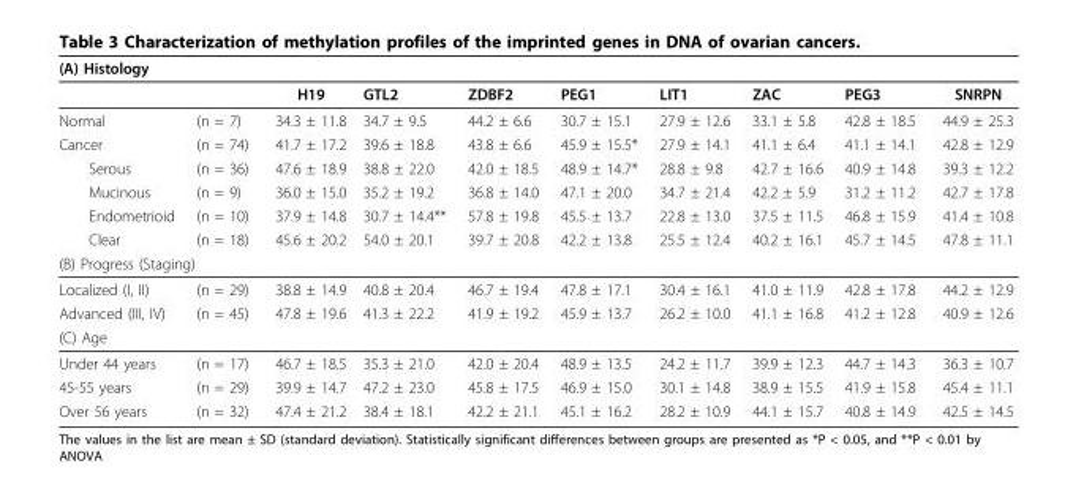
<table><thead><tr><td colspan="10">(A) Histology</td></tr><tr><td></td><td></td><td>H19</td><td>GTL2</td><td>ZDBF2</td><td>PEG1</td><td>LIT1</td><td>ZAC</td><td>PEG3</td><td>SNRPN</td></tr></thead><tbody><tr><td>Normal</td><td>(n = 7)</td><td>34.3 ± 11.8</td><td>34.7 ± 9.5</td><td>44.2 ± 6.6</td><td>30.7 ± 15.1</td><td>27.9 ± 12.6</td><td>33.1 ± 5.8</td><td>42.8 ± 18.5</td><td>44.9 ± 25.3</td></tr><tr><td>Cancer</td><td>(n = 74)</td><td>41.7 ± 17.2</td><td>39.6 ± 18.8</td><td>43.8 ± 6.6</td><td>45.9 ± 15.5*</td><td>27.9 ± 14.1</td><td>41.1 ± 6.4</td><td>41.1 ± 14.1</td><td>42.8 ± 12.9</td></tr><tr><td>Serous</td><td>(n = 36)</td><td>47.6 ± 18.9</td><td>38.8 ± 22.0</td><td>42.0 ± 18.5</td><td>48.9 ± 14.7*</td><td>28.8 ± 9.8</td><td>42.7 ± 16.6</td><td>40.9 ± 14.8</td><td>39.3 ± 12.2</td></tr><tr><td>Mucinous</td><td>(n = 9)</td><td>36.0 ± 15.0</td><td>35.2 ± 19.2</td><td>36.8 ± 14.0</td><td>47.1 ± 20.0</td><td>34.7 ± 21.4</td><td>42.2 ± 5.9</td><td>31.2 ± 11.2</td><td>42.7 ± 17.8</td></tr><tr><td>Endometrioid</td><td>(n = 10)</td><td>37.9 ± 14.8</td><td>30.7 ± 14.4**</td><td>57.8 ± 19.8</td><td>45.5 ± 13.7</td><td>22.8 ± 13.0</td><td>37.5 ± 11.5</td><td>46.8 ± 15.9</td><td>41.4 ± 10.8</td></tr><tr><td>Clear</td><td>(n = 18)</td><td>45.6 ± 20.2</td><td>54.0 ± 20.1</td><td>39.7 ± 20.8</td><td>42.2 ± 13.8</td><td>25.5 ± 12.4</td><td>40.2 ± 16.1</td><td>45.7 ± 14.5</td><td>47.8 ± 11.1</td></tr><tr><td colspan="10">(B) Progress (Staging)</td></tr><tr><td>Localized (I, II)</td><td>(n = 29)</td><td>38.8 ± 14.9</td><td>40.8 ± 20.4</td><td>46.7 ± 19.4</td><td>47.8 ± 17.1</td><td>30.4 ± 16.1</td><td>41.0 ± 11.9</td><td>42.8 ± 17.8</td><td>44.2 ± 12.9</td></tr><tr><td>Advanced (III, IV)</td><td>(n = 45)</td><td>47.8 ± 19.6</td><td>41.3 ± 22.2</td><td>41.9 ± 19.2</td><td>45.9 ± 13.7</td><td>26.2 ± 10.0</td><td>41.1 ± 16.8</td><td>41.2 ± 12.8</td><td>40.9 ± 12.6</td></tr><tr><td colspan="10">(C) Age</td></tr><tr><td>Under 44 years</td><td>(n = 17)</td><td>46.7 ± 18.5</td><td>35.3 ± 21.0</td><td>42.0 ± 20.4</td><td>48.9 ± 13.5</td><td>24.2 ± 11.7</td><td>39.9 ± 12.3</td><td>44.7 ± 14.3</td><td>36.3 ± 10.7</td></tr><tr><td>45-55 years</td><td>(n = 29)</td><td>39.9 ± 14.7</td><td>47.2 ± 23.0</td><td>45.8 ± 17.5</td><td>46.9 ± 15.0</td><td>30.1 ± 14.8</td><td>38.9 ± 15.5</td><td>41.9 ± 15.8</td><td>45.4 ± 11.1</td></tr><tr><td>Over 56 years</td><td>(n = 32)</td><td>47.4 ± 21.2</td><td>38.4 ± 18.1</td><td>42.2 ± 21.1</td><td>45.1 ± 16.2</td><td>28.2 ± 10.9</td><td>44.1 ± 15.7</td><td>40.8 ± 14.9</td><td>42.5 ± 14.5</td></tr></tbody></table>